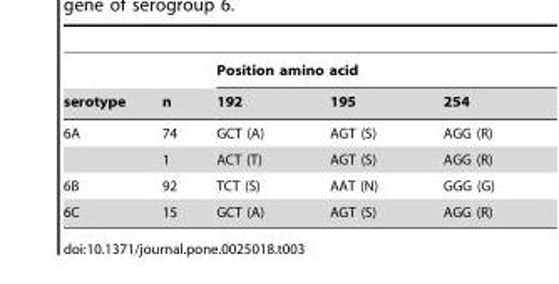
<table><thead><tr><td rowspan="2">serotype</td><td rowspan="2">n</td><td colspan="3">Position amino acid</td></tr><tr><td>192</td><td>195</td><td>254</td></tr></thead><tbody><tr><td rowspan="2">6A</td><td>74</td><td>GCT (A)</td><td>AGT (S)</td><td>AGG (R)</td></tr><tr><td>1</td><td>ACT (T)</td><td>AGT (S)</td><td>AGG (R)</td></tr><tr><td>6B</td><td>92</td><td>TCT (S)</td><td>AAT (N)</td><td>GGG (G)</td></tr><tr><td>6C</td><td>15</td><td>GCT (A)</td><td>AGT (S)</td><td>AGG (R)</td></tr></tbody></table>